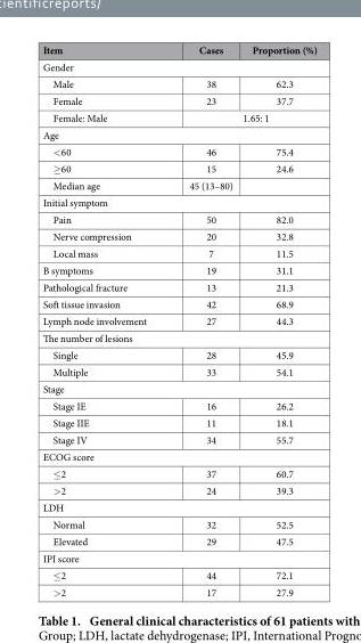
<table><thead><tr><td>Item</td><td>Cases</td><td>Proportion (%)</td></tr></thead><tbody><tr><td colspan="3">Gender</td></tr><tr><td>Male</td><td>38</td><td>62.3</td></tr><tr><td>Female</td><td>23</td><td>37.7</td></tr><tr><td>Female: Male</td><td colspan="2">1.65: 1</td></tr><tr><td colspan="3">Age</td></tr><tr><td>&lt; 60</td><td>46</td><td>75.4</td></tr><tr><td>≥ 60</td><td>15</td><td>24.6</td></tr><tr><td>Median age</td><td>45 (13–80)</td><td></td></tr><tr><td colspan="3">Initial symptom</td></tr><tr><td>Pain</td><td>50</td><td>82.0</td></tr><tr><td>Nerve compression</td><td>20</td><td>32.8</td></tr><tr><td>Local mass</td><td>7</td><td>11.5</td></tr><tr><td>B symptoms</td><td>19</td><td>31.1</td></tr><tr><td>Pathological fracture</td><td>13</td><td>21.3</td></tr><tr><td>Soft tissue invasion</td><td>42</td><td>68.9</td></tr><tr><td>Lymph node involvement</td><td>27</td><td>44.3</td></tr><tr><td colspan="3">The number of lesions</td></tr><tr><td>Single</td><td>28</td><td>45.9</td></tr><tr><td>Multiple</td><td>33</td><td>54.1</td></tr><tr><td colspan="3">Stage</td></tr><tr><td>Stage IE</td><td>16</td><td>26.2</td></tr><tr><td>Stage IIE</td><td>11</td><td>18.1</td></tr><tr><td>Stage IV</td><td>34</td><td>55.7</td></tr><tr><td colspan="3">ECOG score</td></tr><tr><td>≤ 2</td><td>37</td><td>60.7</td></tr><tr><td>&gt; 2</td><td>24</td><td>39.3</td></tr><tr><td colspan="3">LDH</td></tr><tr><td>Normal</td><td>32</td><td>52.5</td></tr><tr><td>Elevated</td><td>29</td><td>47.5</td></tr><tr><td colspan="3">IPI score</td></tr><tr><td>≤ 2</td><td>44</td><td>72.1</td></tr><tr><td>&gt; 2</td><td>17</td><td>27.9</td></tr></tbody></table>